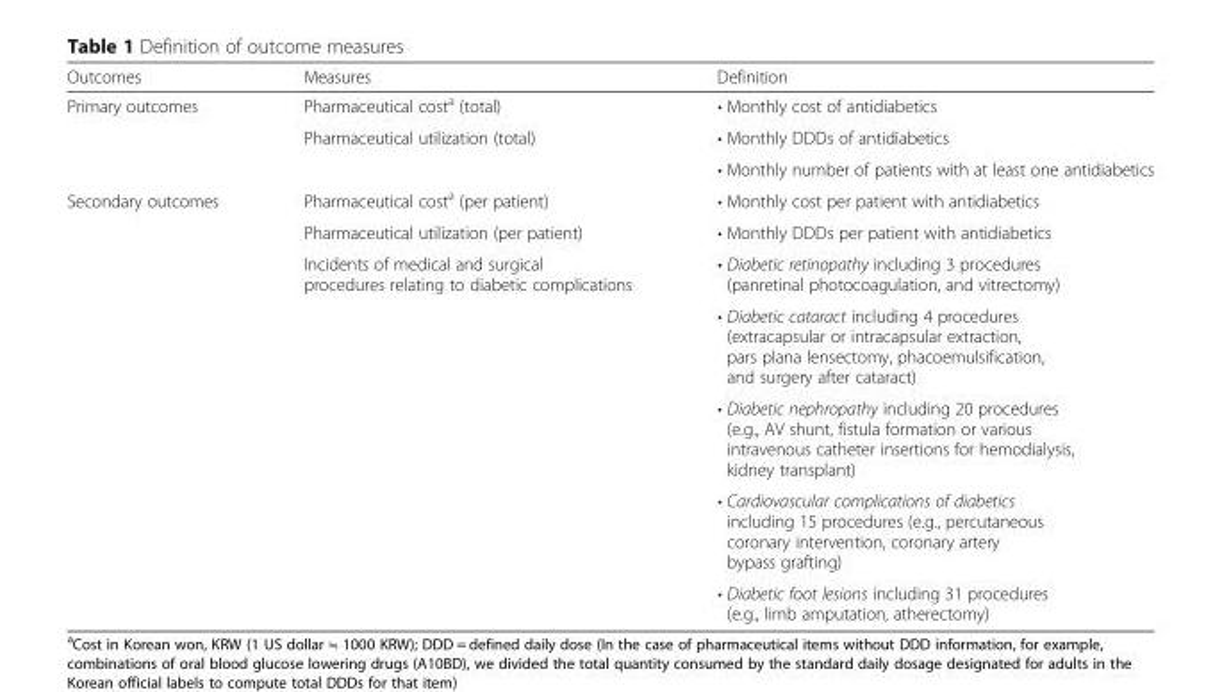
<table><thead><tr><td>Outcomes</td><td>Measures</td><td>Definition</td></tr></thead><tbody><tr><td rowspan="3">Primary outcomes</td><td>Pharmaceutical cost<sup>a</sup> (total)</td><td>• Monthly cost of antidiabetics</td></tr><tr><td rowspan="2">Pharmaceutical utilization (total)</td><td>• Monthly DDDs of antidiabetics</td></tr><tr><td>• Monthly number of patients with at least one antidiabetics</td></tr><tr><td rowspan="7">Secondary outcomes</td><td>Pharmaceutical cost<sup>a</sup> (per patient)</td><td>• Monthly cost per patient with antidiabetics</td></tr><tr><td>Pharmaceutical utilization (per patient)</td><td>• Monthly DDDs per patient with antidiabetics</td></tr><tr><td rowspan="5">Incidents of medical and surgical procedures relating to diabetic complications</td><td>• Diabetic retinopathy including 3 procedures (panretinal photocoagulation, and vitrectomy)</td></tr><tr><td>• Diabetic cataract including 4 procedures (extracapsular or intracapsular extraction, pars plana lensectomy, phacoemulsification, and surgery after cataract)</td></tr><tr><td>• Diabetic nephropathy including 20 procedures (e.g., AV shunt, fistula formation or various intravenous catheter insertions for hemodialysis, kidney transplant)</td></tr><tr><td>• Cardiovascular complications of diabetics including 15 procedures (e.g., percutaneous coronary intervention, coronary artery bypass grafting)</td></tr><tr><td>• Diabetic foot lesions including 31 procedures (e.g., limb amputation, atherectomy)</td></tr></tbody></table>